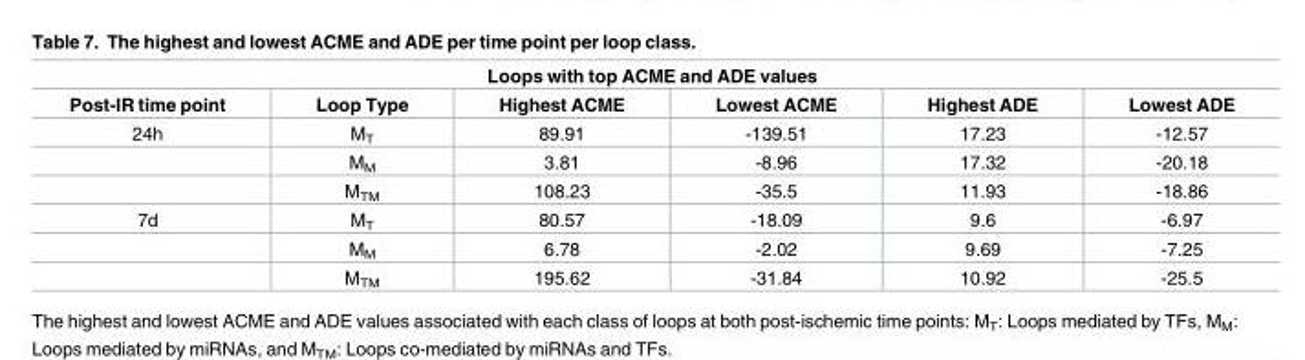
<table><thead><tr><td colspan="6">Loops with top ACME and ADE values</td></tr><tr><td>Post-IR time point</td><td>Loop Type</td><td>Highest ACME</td><td>Lowest ACME</td><td>Highest ADE</td><td>Lowest ADE</td></tr></thead><tbody><tr><td rowspan="3">24h</td><td>M<sub>T</sub></td><td>89.91</td><td>-139.51</td><td>17.23</td><td>-12.57</td></tr><tr><td>M<sub>M</sub></td><td>3.81</td><td>-8.96</td><td>17.32</td><td>-20.18</td></tr><tr><td>M<sub>TM</sub></td><td>108.23</td><td>-35.5</td><td>11.93</td><td>-18.86</td></tr><tr><td rowspan="3">7d</td><td>M<sub>T</sub></td><td>80.57</td><td>-18.09</td><td>9.6</td><td>-6.97</td></tr><tr><td>M<sub>M</sub></td><td>6.78</td><td>-2.02</td><td>9.69</td><td>-7.25</td></tr><tr><td>M<sub>TM</sub></td><td>195.62</td><td>-31.84</td><td>10.92</td><td>-25.5</td></tr></tbody></table>